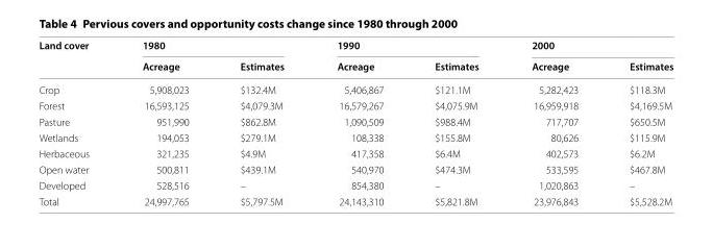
<table><thead><tr><td rowspan="2">Land cover</td><td colspan="2">1980</td><td colspan="2">1990</td><td colspan="2">2000</td></tr><tr><td>Acreage</td><td>Estimates</td><td>Acreage</td><td>Estimates</td><td>Acreage</td><td>Estimates</td></tr></thead><tbody><tr><td>Crop</td><td>5,908,023</td><td>$132.4M</td><td>5,406,867</td><td>$121.1M</td><td>5,282,423</td><td>$118.3M</td></tr><tr><td>Forest</td><td>16,593,125</td><td>$4,079.3M</td><td>16,579,267</td><td>$4,075.9M</td><td>16,959,918</td><td>$4,169.5M</td></tr><tr><td>Pasture</td><td>951,990</td><td>$862.8M</td><td>1,090,509</td><td>$988.4M</td><td>717,707</td><td>$650.5M</td></tr><tr><td>Wetlands</td><td>194,053</td><td>$279.1M</td><td>108,338</td><td>$155.8M</td><td>80,626</td><td>$115.9M</td></tr><tr><td>Herbaceous</td><td>321,235</td><td>$4.9M</td><td>417,358</td><td>$6.4M</td><td>402,573</td><td>$6.2M</td></tr><tr><td>Open water</td><td>500,811</td><td>$439.1M</td><td>540,970</td><td>$474.3M</td><td>533,595</td><td>$467.8M</td></tr><tr><td>Developed</td><td>528,516</td><td>–</td><td>854,380</td><td>–</td><td>1,020,863</td><td>–</td></tr><tr><td>Total</td><td>24,997,765</td><td>$5,797.5M</td><td>24,143,310</td><td>$5,821.8M</td><td>23,976,843</td><td>$5,528.2M</td></tr></tbody></table>